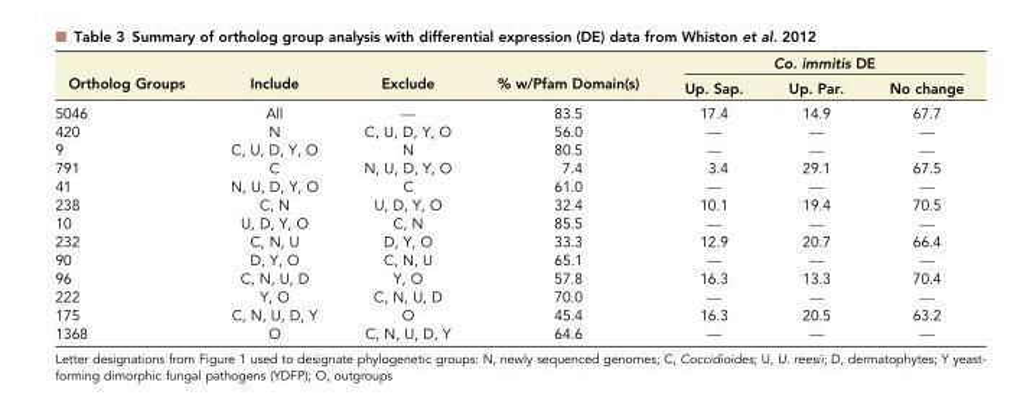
<table><thead><tr><td rowspan="2">Ortholog Groups</td><td rowspan="2">Include</td><td rowspan="2">Exclude</td><td rowspan="2">% w/Pfam Domain(s)</td><td colspan="3">Co. immitis DE</td></tr><tr><td>Up. Sap.</td><td>Up. Par.</td><td>No change</td></tr></thead><tbody><tr><td>5046</td><td>All</td><td>—</td><td>83.5</td><td>17.4</td><td>14.9</td><td>67.7</td></tr><tr><td>420</td><td>N</td><td>C, U, D, Y, O</td><td>56.0</td><td>—</td><td>—</td><td>—</td></tr><tr><td>9</td><td>C, U, D, Y, O</td><td>N</td><td>80.5</td><td>—</td><td>—</td><td>—</td></tr><tr><td>791</td><td>C</td><td>N, U, D, Y, O</td><td>7.4</td><td>3.4</td><td>29.1</td><td>67.5</td></tr><tr><td>41</td><td>N, U, D, Y, O</td><td>C</td><td>61.0</td><td>—</td><td>—</td><td>—</td></tr><tr><td>238</td><td>C, N</td><td>U, D, Y, O</td><td>32.4</td><td>10.1</td><td>19.4</td><td>70.5</td></tr><tr><td>10</td><td>U, D, Y, O</td><td>C, N</td><td>85.5</td><td>—</td><td>—</td><td>—</td></tr><tr><td>232</td><td>C, N, U</td><td>D, Y, O</td><td>33.3</td><td>12.9</td><td>20.7</td><td>66.4</td></tr><tr><td>90</td><td>D, Y, O</td><td>C, N, U</td><td>65.1</td><td>—</td><td>—</td><td>—</td></tr><tr><td>96</td><td>C, N, U, D</td><td>Y, O</td><td>57.8</td><td>16.3</td><td>13.3</td><td>70.4</td></tr><tr><td>222</td><td>Y, O</td><td>C, N, U, D</td><td>70.0</td><td>—</td><td>—</td><td>—</td></tr><tr><td>175</td><td>C, N, U, D, Y</td><td>O</td><td>45.4</td><td>16.3</td><td>20.5</td><td>63.2</td></tr><tr><td>1368</td><td>O</td><td>C, N, U, D, Y</td><td>64.6</td><td>—</td><td>—</td><td>—</td></tr></tbody></table>